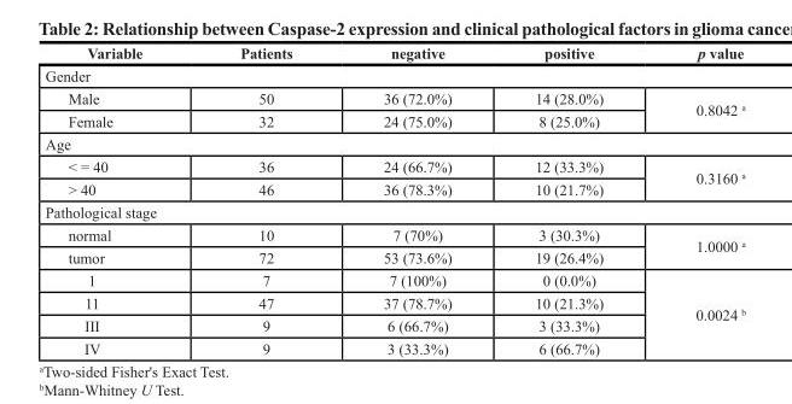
<table><thead><tr><td>Variable</td><td>Patients</td><td>negative</td><td>positive</td><td>p value</td></tr></thead><tbody><tr><td colspan="5">Gender</td></tr><tr><td>Male</td><td>50</td><td>36 (72.0%)</td><td>14 (28.0%)</td><td rowspan="2">0.8042 <sup>a</sup></td></tr><tr><td>Female</td><td>32</td><td>24 (75.0%)</td><td>8 (25.0%)</td></tr><tr><td colspan="5">Age</td></tr><tr><td>&lt; = 40</td><td>36</td><td>24 (66.7%)</td><td>12 (33.3%)</td><td rowspan="2">0.3160 <sup>a</sup></td></tr><tr><td>&gt; 40</td><td>46</td><td>36 (78.3%)</td><td>10 (21.7%)</td></tr><tr><td colspan="5">Pathological stage</td></tr><tr><td>normal</td><td>10</td><td>7 (70%)</td><td>3 (30.3%)</td><td rowspan="2">1.0000 <sup>a</sup></td></tr><tr><td>tumor</td><td>72</td><td>53 (73.6%)</td><td>19 (26.4%)</td></tr><tr><td>1</td><td>7</td><td>7 (100%)</td><td>0 (0.0%)</td><td rowspan="4">0.0024 <sup>b</sup></td></tr><tr><td>11</td><td>47</td><td>37 (78.7%)</td><td>10 (21.3%)</td></tr><tr><td>III</td><td>9</td><td>6 (66.7%)</td><td>3 (33.3%)</td></tr><tr><td>IV</td><td>9</td><td>3 (33.3%)</td><td>6 (66.7%)</td></tr></tbody></table>